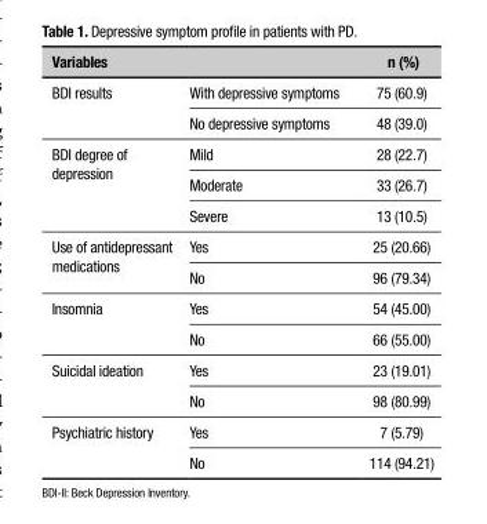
<table><thead><tr><td>Variables</td><td></td><td>n (%)</td></tr></thead><tbody><tr><td rowspan="2">BDI results</td><td>With depressive symptoms</td><td>75 (60.9)</td></tr><tr><td>No depressive symptoms</td><td>48 (39.0)</td></tr><tr><td rowspan="3">BDI degree of depression</td><td>Mild</td><td>28 (22.7)</td></tr><tr><td>Moderate</td><td>33 (26.7)</td></tr><tr><td>Severe</td><td>13 (10.5)</td></tr><tr><td rowspan="2">Use of antidepressant medications</td><td>Yes</td><td>25 (20.66)</td></tr><tr><td>No</td><td>96 (79.34)</td></tr><tr><td rowspan="2">Insomnia</td><td>Yes</td><td>54 (45.00)</td></tr><tr><td>No</td><td>66 (55.00)</td></tr><tr><td rowspan="2">Suicidal ideation</td><td>Yes</td><td>23 (19.01)</td></tr><tr><td>No</td><td>98 (80.99)</td></tr><tr><td rowspan="2">Psychiatric history</td><td>Yes</td><td>7 (5.79)</td></tr><tr><td>No</td><td>114 (94.21)</td></tr></tbody></table>